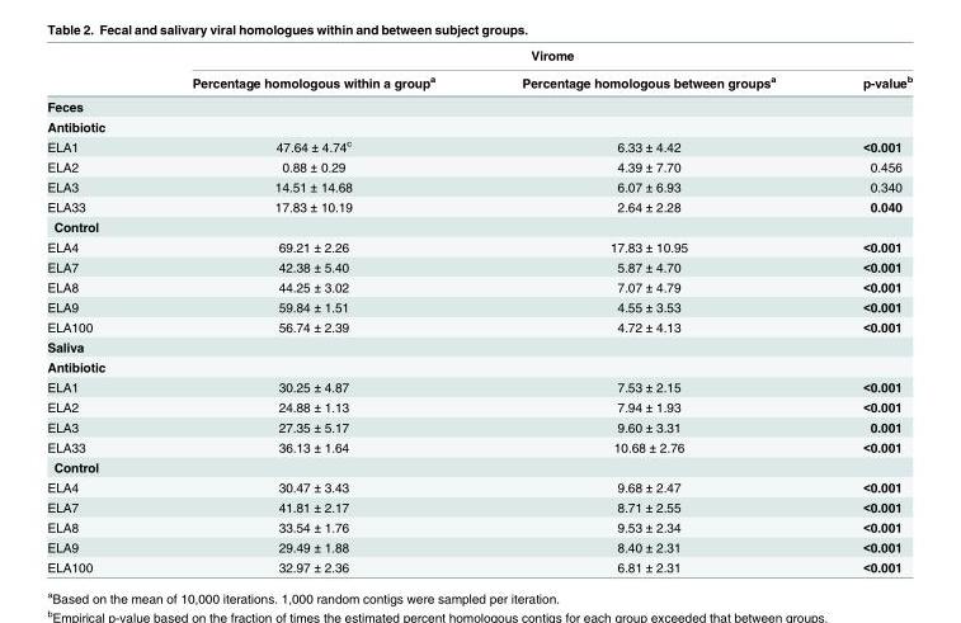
<table><thead><tr><td rowspan="2"></td><td colspan="3">Virome</td></tr><tr><td>Percentage homologous within a group<sup>a</sup></td><td>Percentage homologous between groups<sup>a</sup></td><td>p-value<sup>b</sup></td></tr></thead><tbody><tr><td colspan="4">Feces</td></tr><tr><td colspan="4">Antibiotic</td></tr><tr><td>ELA1</td><td>47.64 ± 4.74<sup>c</sup></td><td>6.33 ± 4.42</td><td>&lt;0.001</td></tr><tr><td>ELA2</td><td>0.88 ± 0.29</td><td>4.39 ± 7.70</td><td>0.456</td></tr><tr><td>ELA3</td><td>14.51 ± 14.68</td><td>6.07 ± 6.93</td><td>0.340</td></tr><tr><td>ELA33</td><td>17.83 ± 10.19</td><td>2.64 ± 2.28</td><td>0.040</td></tr><tr><td colspan="4">Control</td></tr><tr><td>ELA4</td><td>69.21 ± 2.26</td><td>17.83 ± 10.95</td><td>&lt;0.001</td></tr><tr><td>ELA7</td><td>42.38 ± 5.40</td><td>5.87 ± 4.70</td><td>&lt;0.001</td></tr><tr><td>ELA8</td><td>44.25 ± 3.02</td><td>7.07 ± 4.79</td><td>&lt;0.001</td></tr><tr><td>ELA9</td><td>59.84 ± 1.51</td><td>4.55 ± 3.53</td><td>&lt;0.001</td></tr><tr><td>ELA100</td><td>56.74 ± 2.39</td><td>4.72 ± 4.13</td><td>&lt;0.001</td></tr><tr><td colspan="4">Saliva</td></tr><tr><td colspan="4">Antibiotic</td></tr><tr><td>ELA1</td><td>30.25 ± 4.87</td><td>7.53 ± 2.15</td><td>&lt;0.001</td></tr><tr><td>ELA2</td><td>24.88 ± 1.13</td><td>7.94 ± 1.93</td><td>&lt;0.001</td></tr><tr><td>ELA3</td><td>27.35 ± 5.17</td><td>9.60 ± 3.31</td><td>0.001</td></tr><tr><td>ELA33</td><td>36.13 ± 1.64</td><td>10.68 ± 2.76</td><td>&lt;0.001</td></tr><tr><td colspan="4">Control</td></tr><tr><td>ELA4</td><td>30.47 ± 3.43</td><td>9.68 ± 2.47</td><td>&lt;0.001</td></tr><tr><td>ELA7</td><td>41.81 ± 2.17</td><td>8.71 ± 2.55</td><td>&lt;0.001</td></tr><tr><td>ELA8</td><td>33.54 ± 1.76</td><td>9.53 ± 2.34</td><td>&lt;0.001</td></tr><tr><td>ELA9</td><td>29.49 ± 1.88</td><td>8.40 ± 2.31</td><td>&lt;0.001</td></tr><tr><td>ELA100</td><td>32.97 ± 2.36</td><td>6.81 ± 2.31</td><td>&lt;0.001</td></tr></tbody></table>